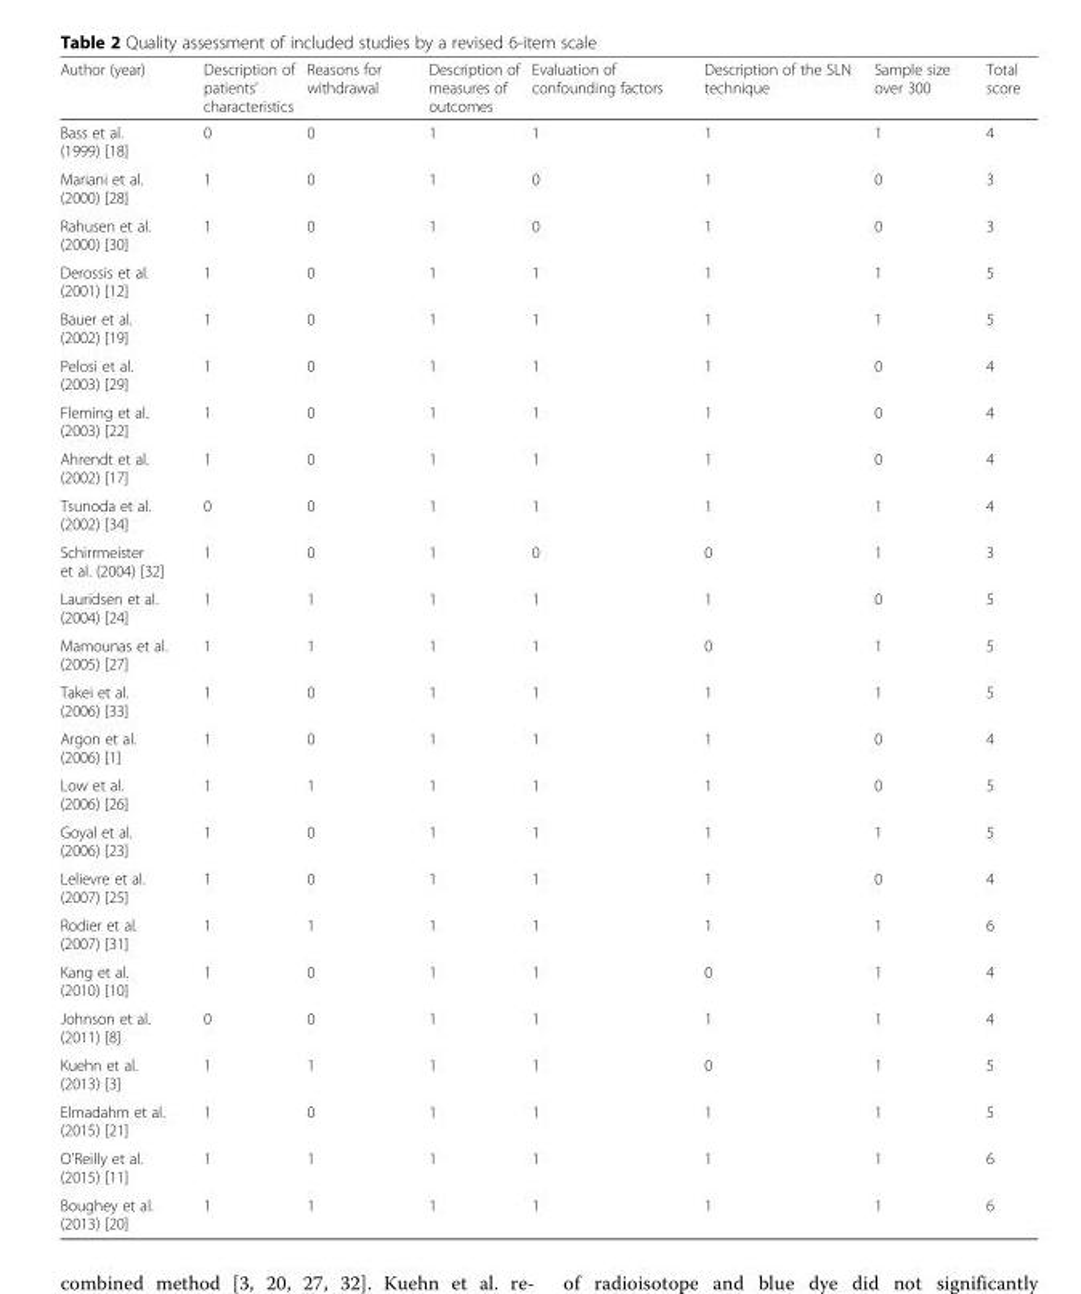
<table><thead><tr><td>Author (year)</td><td>Description of patients’ characteristics</td><td>Reasons for withdrawal</td><td>Description of measures of outcomes</td><td>Evaluation of confounding factors</td><td>Description of the SLN technique</td><td>Sample size over 300</td><td>Total score</td></tr></thead><tbody><tr><td>Bass et al. (1999) [18]</td><td>0</td><td>0</td><td>1</td><td>1</td><td>1</td><td>1</td><td>4</td></tr><tr><td>Mariani et al. (2000) [28]</td><td>1</td><td>0</td><td>1</td><td>0</td><td>1</td><td>0</td><td>3</td></tr><tr><td>Rahusen et al. (2000) [30]</td><td>1</td><td>0</td><td>1</td><td>0</td><td>1</td><td>0</td><td>3</td></tr><tr><td>Derossis et al. (2001) [12]</td><td>1</td><td>0</td><td>1</td><td>1</td><td>1</td><td>1</td><td>5</td></tr><tr><td>Bauer et al. (2002) [19]</td><td>1</td><td>0</td><td>1</td><td>1</td><td>1</td><td>1</td><td>5</td></tr><tr><td>Pelosi et al. (2003) [29]</td><td>1</td><td>0</td><td>1</td><td>1</td><td>1</td><td>0</td><td>4</td></tr><tr><td>Fleming et al. (2003) [22]</td><td>1</td><td>0</td><td>1</td><td>1</td><td>1</td><td>0</td><td>4</td></tr><tr><td>Ahrendt et al. (2002) [17]</td><td>1</td><td>0</td><td>1</td><td>1</td><td>1</td><td>0</td><td>4</td></tr><tr><td>Tsunoda et al. (2002) [34]</td><td>0</td><td>0</td><td>1</td><td>1</td><td>1</td><td>1</td><td>4</td></tr><tr><td>Schirrmeister et al. (2004) [32]</td><td>1</td><td>0</td><td>1</td><td>0</td><td>0</td><td>1</td><td>3</td></tr><tr><td>Lauridsen et al. (2004) [24]</td><td>1</td><td>1</td><td>1</td><td>1</td><td>1</td><td>0</td><td>5</td></tr><tr><td>Mamounas et al. (2005) [27]</td><td>1</td><td>1</td><td>1</td><td>1</td><td>0</td><td>1</td><td>5</td></tr><tr><td>Takei et al. (2006) [33]</td><td>1</td><td>0</td><td>1</td><td>1</td><td>1</td><td>1</td><td>5</td></tr><tr><td>Argon et al. (2006) [1]</td><td>1</td><td>0</td><td>1</td><td>1</td><td>1</td><td>0</td><td>4</td></tr><tr><td>Low et al. (2006) [26]</td><td>1</td><td>1</td><td>1</td><td>1</td><td>1</td><td>0</td><td>5</td></tr><tr><td>Goyal et al. (2006) [23]</td><td>1</td><td>0</td><td>1</td><td>1</td><td>1</td><td>1</td><td>5</td></tr><tr><td>Lelievre et al. (2007) [25]</td><td>1</td><td>0</td><td>1</td><td>1</td><td>1</td><td>0</td><td>4</td></tr><tr><td>Rodier et al. (2007) [31]</td><td>1</td><td>1</td><td>1</td><td>1</td><td>1</td><td>1</td><td>6</td></tr><tr><td>Kang et al. (2010) [10]</td><td>1</td><td>0</td><td>1</td><td>1</td><td>0</td><td>1</td><td>4</td></tr><tr><td>Johnson et al. (2011) [8]</td><td>0</td><td>0</td><td>1</td><td>1</td><td>1</td><td>1</td><td>4</td></tr><tr><td>Kuehn et al. (2013) [3]</td><td>1</td><td>1</td><td>1</td><td>1</td><td>0</td><td>1</td><td>5</td></tr><tr><td>Elmadahm et al. (2015) [21]</td><td>1</td><td>0</td><td>1</td><td>1</td><td>1</td><td>1</td><td>5</td></tr><tr><td>O&#x27;Reilly et al. (2015) [11]</td><td>1</td><td>1</td><td>1</td><td>1</td><td>1</td><td>1</td><td>6</td></tr><tr><td>Boughey et al. (2013) [20]</td><td>1</td><td>1</td><td>1</td><td>1</td><td>1</td><td>1</td><td>6</td></tr></tbody></table>